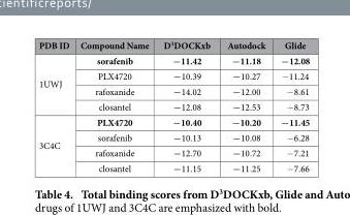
<table><thead><tr><td>PDB ID</td><td>Compound Name</td><td>D<sup>3</sup>DOCKxb</td><td>Autodock</td><td>Glide</td></tr></thead><tbody><tr><td rowspan="4">1UWJ</td><td>sorafenib</td><td>−11.42</td><td>−11.18</td><td>−12.08</td></tr><tr><td>PLX4720</td><td>−10.39</td><td>−10.27</td><td>−11.24</td></tr><tr><td>rafoxanide</td><td>−14.02</td><td>−12.00</td><td>−8.61</td></tr><tr><td>closantel</td><td>−12.08</td><td>−12.53</td><td>−8.73</td></tr><tr><td rowspan="4">3C4C</td><td>PLX4720</td><td>−10.40</td><td>−10.20</td><td>−11.45</td></tr><tr><td>sorafenib</td><td>−10.13</td><td>−10.08</td><td>−6.28</td></tr><tr><td>rafoxanide</td><td>−12.70</td><td>−10.72</td><td>−7.21</td></tr><tr><td>closantel</td><td>−11.15</td><td>−11.25</td><td>−7.66</td></tr></tbody></table>